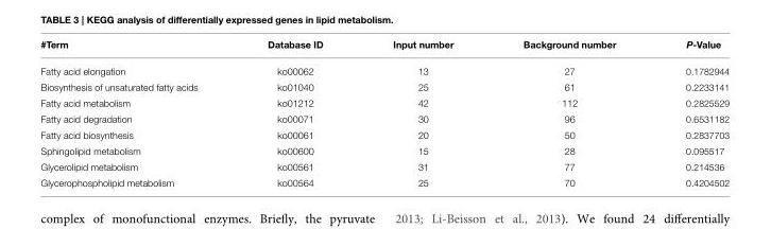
<table><thead><tr><td>#Term</td><td>Database ID</td><td>Input number</td><td>Background number</td><td>P-Value</td></tr></thead><tbody><tr><td>Fatty acid elongation</td><td>ko00062</td><td>13</td><td>27</td><td>0.1782944</td></tr><tr><td>Biosynthesis of unsaturated fatty acids</td><td>ko01040</td><td>25</td><td>61</td><td>0.2233141</td></tr><tr><td>Fatty acid metabolism</td><td>ko01212</td><td>42</td><td>112</td><td>0.2825529</td></tr><tr><td>Fatty acid degradation</td><td>ko00071</td><td>30</td><td>96</td><td>0.6531182</td></tr><tr><td>Fatty acid biosynthesis</td><td>ko00061</td><td>20</td><td>50</td><td>0.2837703</td></tr><tr><td>Sphingolipid metabolism</td><td>ko00600</td><td>15</td><td>28</td><td>0.095517</td></tr><tr><td>Glycerolipid metabolism</td><td>ko00561</td><td>31</td><td>77</td><td>0.214536</td></tr><tr><td>Glycerophospholipid metabolism</td><td>ko00564</td><td>25</td><td>70</td><td>0.4204502</td></tr></tbody></table>